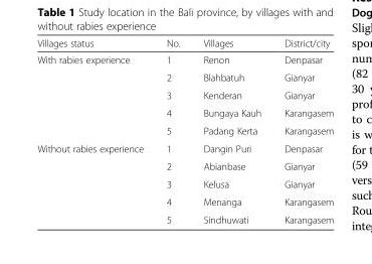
<table><thead><tr><td>Villages status</td><td>No.</td><td>Villages</td><td>District/city</td></tr></thead><tbody><tr><td rowspan="5">With rabies experience</td><td>1</td><td>Renon</td><td>Denpasar</td></tr><tr><td>2</td><td>Blahbatuh</td><td>Gianyar</td></tr><tr><td>3</td><td>Kenderan</td><td>Gianyar</td></tr><tr><td>4</td><td>Bungaya Kauh</td><td>Karangasem</td></tr><tr><td>5</td><td>Padang Kerta</td><td>Karangasem</td></tr><tr><td rowspan="5">Without rabies experience</td><td>1</td><td>Dangin Puri</td><td>Denpasar</td></tr><tr><td>2</td><td>Abianbase</td><td>Gianyar</td></tr><tr><td>3</td><td>Kelusa</td><td>Gianyar</td></tr><tr><td>4</td><td>Menanga</td><td>Karangasem</td></tr><tr><td>5</td><td>Sindhuwati</td><td>Karangasem</td></tr></tbody></table>